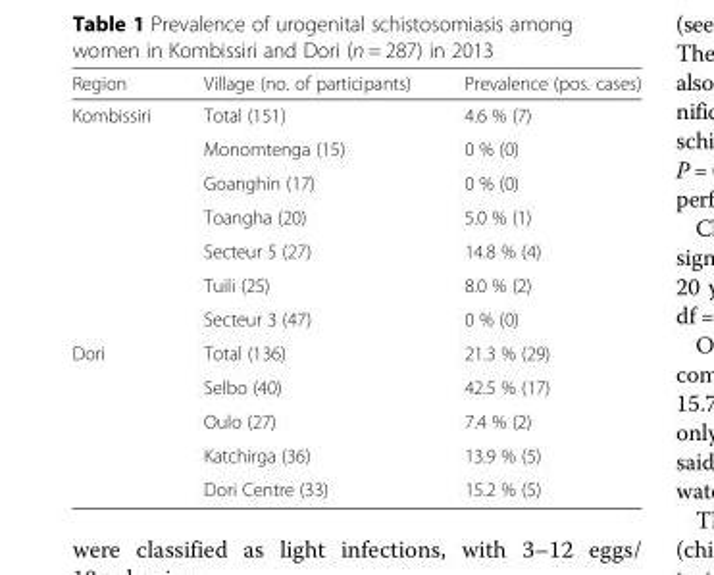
<table><thead><tr><td>Region</td><td>Village (no. of participants)</td><td>Prevalence (pos. cases)</td></tr></thead><tbody><tr><td rowspan="7">Kombissiri</td><td>Total (151)</td><td>4.6 % (7)</td></tr><tr><td>Monomtenga (15)</td><td>0 % (0)</td></tr><tr><td>Goanghin (17)</td><td>0 % (0)</td></tr><tr><td>Toangha (20)</td><td>5.0 % (1)</td></tr><tr><td>Secteur 5 (27)</td><td>14.8 % (4)</td></tr><tr><td>Tuili (25)</td><td>8.0 % (2)</td></tr><tr><td>Secteur 3 (47)</td><td>0 % (0)</td></tr><tr><td rowspan="5">Dori</td><td>Total (136)</td><td>21.3 % (29)</td></tr><tr><td>Selbo (40)</td><td>42.5 % (17)</td></tr><tr><td>Oulo (27)</td><td>7.4 % (2)</td></tr><tr><td>Katchirga (36)</td><td>13.9 % (5)</td></tr><tr><td>Dori Centre (33)</td><td>15.2 % (5)</td></tr></tbody></table>